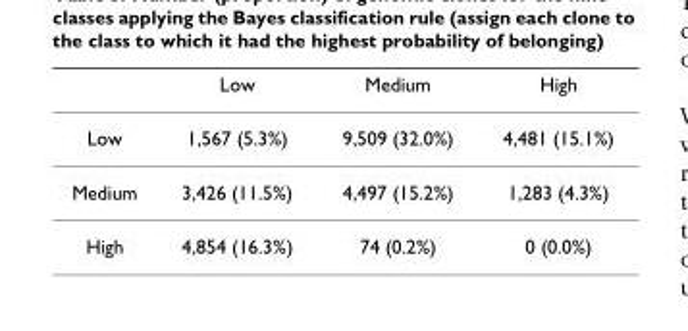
<table><thead><tr><td></td><td>Low</td><td>Medium</td><td>High</td></tr></thead><tbody><tr><td>Low</td><td>1,567 (5.3%)</td><td>9,509 (32.0%)</td><td>4,481 (15.1%)</td></tr><tr><td>Medium</td><td>3,426 (11.5%)</td><td>4,497 (15.2%)</td><td>1,283 (4.3%)</td></tr><tr><td>High</td><td>4,854 (16.3%)</td><td>74 (0.2%)</td><td>0 (0.0%)</td></tr></tbody></table>